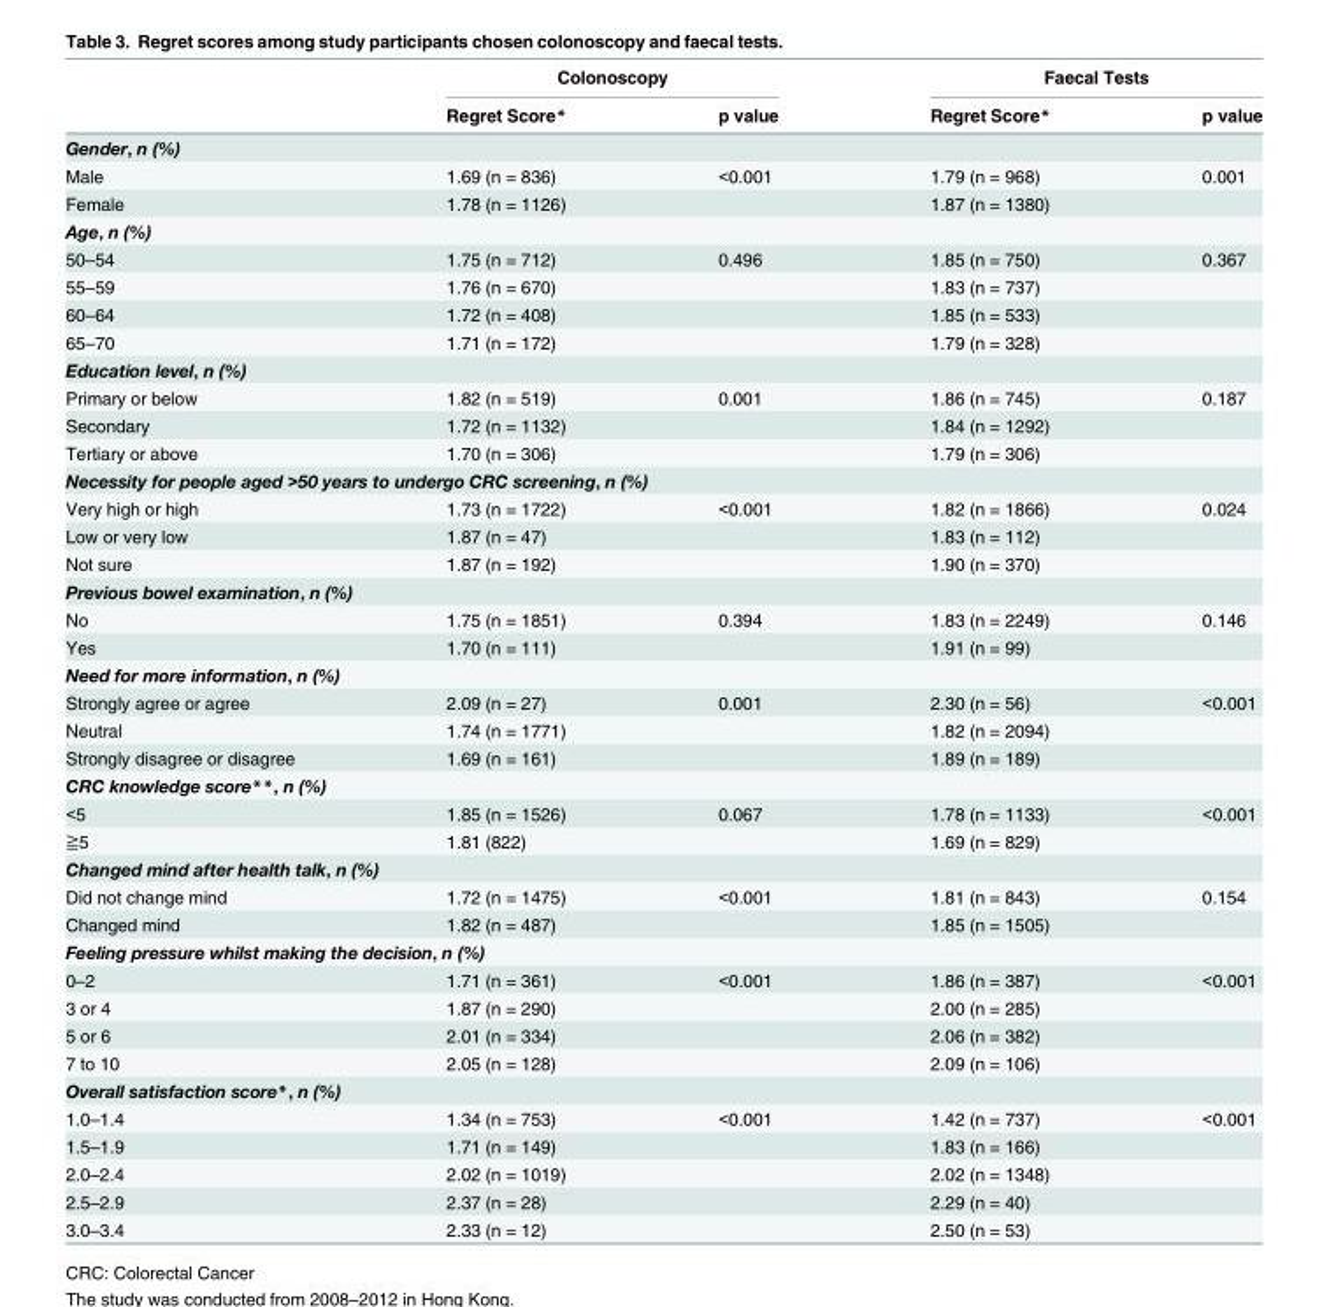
<table><thead><tr><td rowspan="2"></td><td colspan="2">Colonoscopy</td><td colspan="2">Faecal Tests</td></tr><tr><td>Regret Score*</td><td>p value</td><td>Regret Score*</td><td>p value</td></tr></thead><tbody><tr><td colspan="5">Gender, n (%)</td></tr><tr><td>Male</td><td>1.69 (n = 836)</td><td>&lt;0.001</td><td>1.79 (n = 968)</td><td>0.001</td></tr><tr><td>Female</td><td>1.78 (n = 1126)</td><td></td><td>1.87 (n = 1380)</td><td></td></tr><tr><td colspan="5">Age, n (%)</td></tr><tr><td>50–54</td><td>1.75 (n = 712)</td><td>0.496</td><td>1.85 (n = 750)</td><td>0.367</td></tr><tr><td>55–59</td><td>1.76 (n = 670)</td><td></td><td>1.83 (n = 737)</td><td></td></tr><tr><td>60–64</td><td>1.72 (n = 408)</td><td></td><td>1.85 (n = 533)</td><td></td></tr><tr><td>65–70</td><td>1.71 (n = 172)</td><td></td><td>1.79 (n = 328)</td><td></td></tr><tr><td colspan="5">Education level, n (%)</td></tr><tr><td>Primary or below</td><td>1.82 (n = 519)</td><td>0.001</td><td>1.86 (n = 745)</td><td>0.187</td></tr><tr><td>Secondary</td><td>1.72 (n = 1132)</td><td></td><td>1.84 (n = 1292)</td><td></td></tr><tr><td>Tertiary or above</td><td>1.70 (n = 306)</td><td></td><td>1.79 (n = 306)</td><td></td></tr><tr><td colspan="5">Necessity for people aged &gt;50 years to undergo CRC screening, n (%)</td></tr><tr><td>Very high or high</td><td>1.73 (n = 1722)</td><td>&lt;0.001</td><td>1.82 (n = 1866)</td><td>0.024</td></tr><tr><td>Low or very low</td><td>1.87 (n = 47)</td><td></td><td>1.83 (n = 112)</td><td></td></tr><tr><td>Not sure</td><td>1.87 (n = 192)</td><td></td><td>1.90 (n = 370)</td><td></td></tr><tr><td colspan="5">Previous bowel examination, n (%)</td></tr><tr><td>No</td><td>1.75 (n = 1851)</td><td>0.394</td><td>1.83 (n = 2249)</td><td>0.146</td></tr><tr><td>Yes</td><td>1.70 (n = 111)</td><td></td><td>1.91 (n = 99)</td><td></td></tr><tr><td colspan="5">Need for more information, n (%)</td></tr><tr><td>Strongly agree or agree</td><td>2.09 (n = 27)</td><td>0.001</td><td>2.30 (n = 56)</td><td>&lt;0.001</td></tr><tr><td>Neutral</td><td>1.74 (n = 1771)</td><td></td><td>1.82 (n = 2094)</td><td></td></tr><tr><td>Strongly disagree or disagree</td><td>1.69 (n = 161)</td><td></td><td>1.89 (n = 189)</td><td></td></tr><tr><td colspan="5">CRC knowledge score**, n (%)</td></tr><tr><td>&lt;5</td><td>1.85 (n = 1526)</td><td>0.067</td><td>1.78 (n = 1133)</td><td>&lt;0.001</td></tr><tr><td>≧5</td><td>1.81 (822)</td><td></td><td>1.69 (n = 829)</td><td></td></tr><tr><td colspan="5">Changed mind after health talk, n (%)</td></tr><tr><td>Did not change mind</td><td>1.72 (n = 1475)</td><td>&lt;0.001</td><td>1.81 (n = 843)</td><td>0.154</td></tr><tr><td>Changed mind</td><td>1.82 (n = 487)</td><td></td><td>1.85 (n = 1505)</td><td></td></tr><tr><td colspan="5">Feeling pressure whilst making the decision, n (%)</td></tr><tr><td>0–2</td><td>1.71 (n = 361)</td><td>&lt;0.001</td><td>1.86 (n = 387)</td><td>&lt;0.001</td></tr><tr><td>3 or 4</td><td>1.87 (n = 290)</td><td></td><td>2.00 (n = 285)</td><td></td></tr><tr><td>5 or 6</td><td>2.01 (n = 334)</td><td></td><td>2.06 (n = 382)</td><td></td></tr><tr><td>7 to 10</td><td>2.05 (n = 128)</td><td></td><td>2.09 (n = 106)</td><td></td></tr><tr><td colspan="5">Overall satisfaction score*, n (%)</td></tr><tr><td>1.0–1.4</td><td>1.34 (n = 753)</td><td>&lt;0.001</td><td>1.42 (n = 737)</td><td>&lt;0.001</td></tr><tr><td>1.5–1.9</td><td>1.71 (n = 149)</td><td></td><td>1.83 (n = 166)</td><td></td></tr><tr><td>2.0–2.4</td><td>2.02 (n = 1019)</td><td></td><td>2.02 (n = 1348)</td><td></td></tr><tr><td>2.5–2.9</td><td>2.37 (n = 28)</td><td></td><td>2.29 (n = 40)</td><td></td></tr><tr><td>3.0–3.4</td><td>2.33 (n = 12)</td><td></td><td>2.50 (n = 53)</td><td></td></tr></tbody></table>